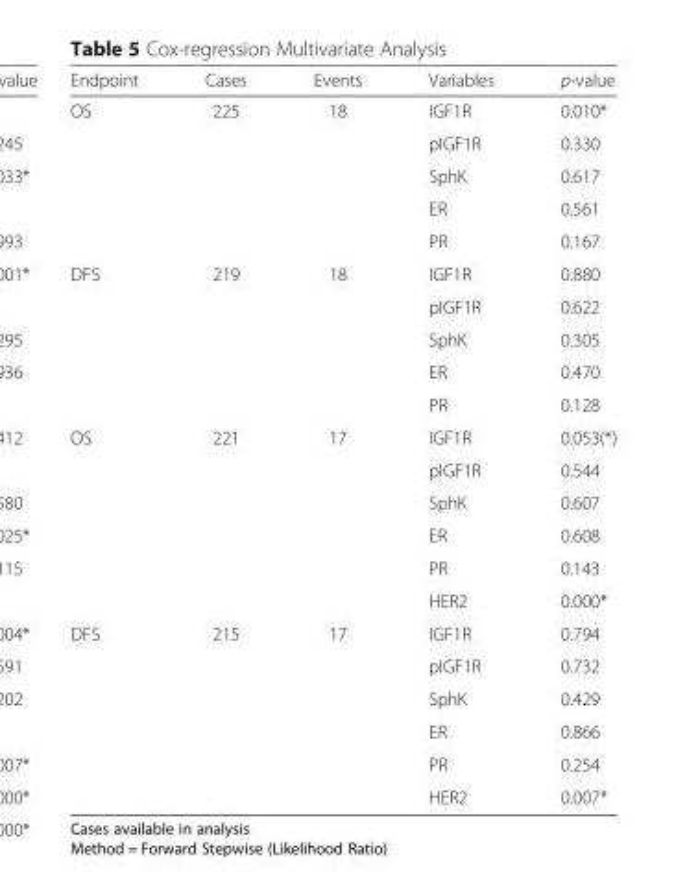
<table><thead><tr><td>Endpoint</td><td>Cases</td><td>Events</td><td>Variables</td><td>p-value</td></tr></thead><tbody><tr><td rowspan="5">OS</td><td>225</td><td>18</td><td>IGF1R</td><td>0.010*</td></tr><tr><td></td><td></td><td>pIGF1R</td><td>0.330</td></tr><tr><td></td><td></td><td>SphK</td><td>0.617</td></tr><tr><td></td><td></td><td>ER</td><td>0.561</td></tr><tr><td></td><td></td><td>PR</td><td>0.167</td></tr><tr><td rowspan="5">DFS</td><td>219</td><td>18</td><td>IGF1R</td><td>0.880</td></tr><tr><td></td><td></td><td>pIGF1R</td><td>0.622</td></tr><tr><td></td><td></td><td>SphK</td><td>0.305</td></tr><tr><td></td><td></td><td>ER</td><td>0.470</td></tr><tr><td></td><td></td><td>PR</td><td>0.128</td></tr><tr><td rowspan="6">OS</td><td>221</td><td>17</td><td>IGF1R</td><td>0.053(*)</td></tr><tr><td></td><td></td><td>pIGF1R</td><td>0.544</td></tr><tr><td></td><td></td><td>SphK</td><td>0.607</td></tr><tr><td></td><td></td><td>ER</td><td>0.608</td></tr><tr><td></td><td></td><td>PR</td><td>0.143</td></tr><tr><td></td><td></td><td>HER2</td><td>0.000*</td></tr><tr><td rowspan="6">DFS</td><td>215</td><td>17</td><td>IGF1R</td><td>0.794</td></tr><tr><td></td><td></td><td>pIGF1R</td><td>0.732</td></tr><tr><td></td><td></td><td>SphK</td><td>0.429</td></tr><tr><td></td><td></td><td>ER</td><td>0.866</td></tr><tr><td></td><td></td><td>PR</td><td>0.254</td></tr><tr><td></td><td></td><td>HER2</td><td>0.007*</td></tr></tbody></table>